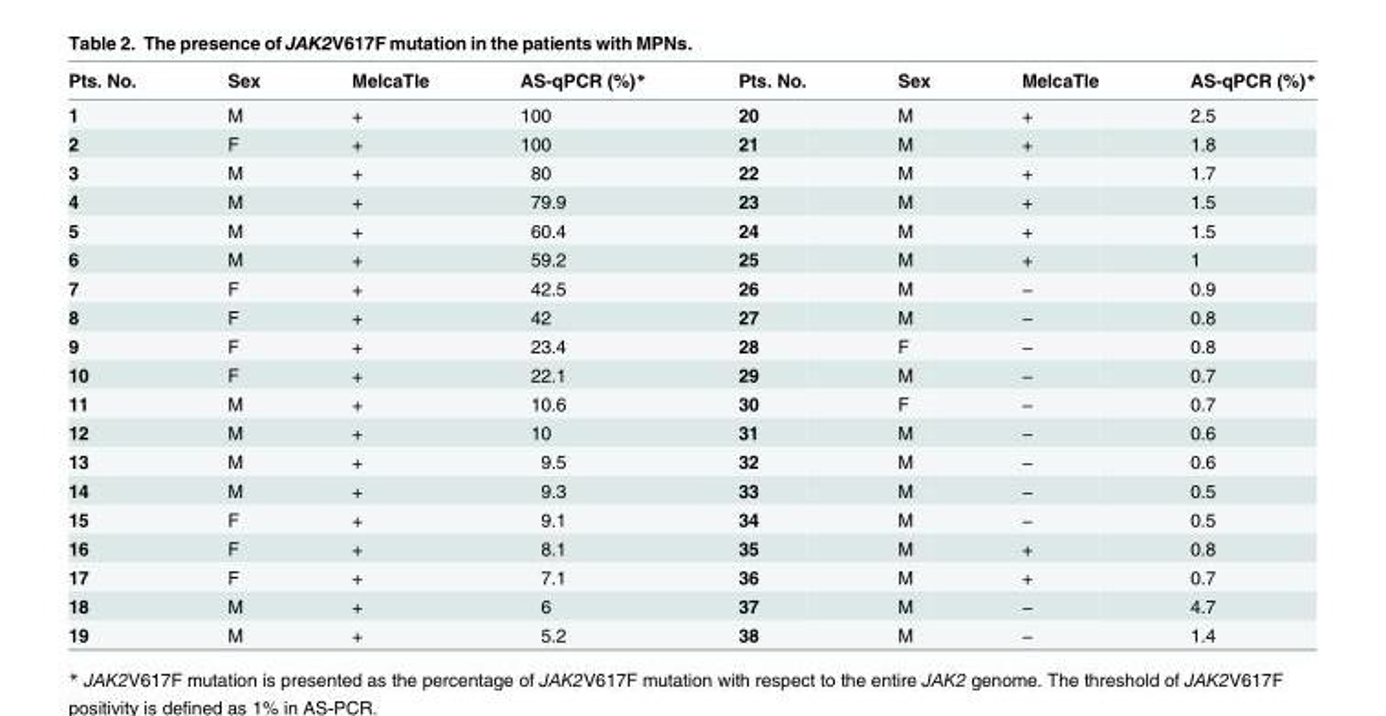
<table><thead><tr><td>Pts. No.</td><td>Sex</td><td>MelcaTle</td><td>AS-qPCR (%)*</td><td>Pts. No.</td><td>Sex</td><td>MelcaTle</td><td>AS-qPCR (%)*</td></tr></thead><tbody><tr><td>1</td><td>M</td><td>+</td><td>100</td><td>20</td><td>M</td><td>+</td><td>2.5</td></tr><tr><td>2</td><td>F</td><td>+</td><td>100</td><td>21</td><td>M</td><td>+</td><td>1.8</td></tr><tr><td>3</td><td>M</td><td>+</td><td>80</td><td>22</td><td>M</td><td>+</td><td>1.7</td></tr><tr><td>4</td><td>M</td><td>+</td><td>79.9</td><td>23</td><td>M</td><td>+</td><td>1.5</td></tr><tr><td>5</td><td>M</td><td>+</td><td>60.4</td><td>24</td><td>M</td><td>+</td><td>1.5</td></tr><tr><td>6</td><td>M</td><td>+</td><td>59.2</td><td>25</td><td>M</td><td>+</td><td>1</td></tr><tr><td>7</td><td>F</td><td>+</td><td>42.5</td><td>26</td><td>M</td><td>−</td><td>0.9</td></tr><tr><td>8</td><td>F</td><td>+</td><td>42</td><td>27</td><td>M</td><td>−</td><td>0.8</td></tr><tr><td>9</td><td>F</td><td>+</td><td>23.4</td><td>28</td><td>F</td><td>−</td><td>0.8</td></tr><tr><td>10</td><td>F</td><td>+</td><td>22.1</td><td>29</td><td>M</td><td>−</td><td>0.7</td></tr><tr><td>11</td><td>M</td><td>+</td><td>10.6</td><td>30</td><td>F</td><td>−</td><td>0.7</td></tr><tr><td>12</td><td>M</td><td>+</td><td>10</td><td>31</td><td>M</td><td>−</td><td>0.6</td></tr><tr><td>13</td><td>M</td><td>+</td><td>9.5</td><td>32</td><td>M</td><td>−</td><td>0.6</td></tr><tr><td>14</td><td>M</td><td>+</td><td>9.3</td><td>33</td><td>M</td><td>−</td><td>0.5</td></tr><tr><td>15</td><td>F</td><td>+</td><td>9.1</td><td>34</td><td>M</td><td>−</td><td>0.5</td></tr><tr><td>16</td><td>F</td><td>+</td><td>8.1</td><td>35</td><td>M</td><td>+</td><td>0.8</td></tr><tr><td>17</td><td>F</td><td>+</td><td>7.1</td><td>36</td><td>M</td><td>+</td><td>0.7</td></tr><tr><td>18</td><td>M</td><td>+</td><td>6</td><td>37</td><td>M</td><td>−</td><td>4.7</td></tr><tr><td>19</td><td>M</td><td>+</td><td>5.2</td><td>38</td><td>M</td><td>−</td><td>1.4</td></tr></tbody></table>